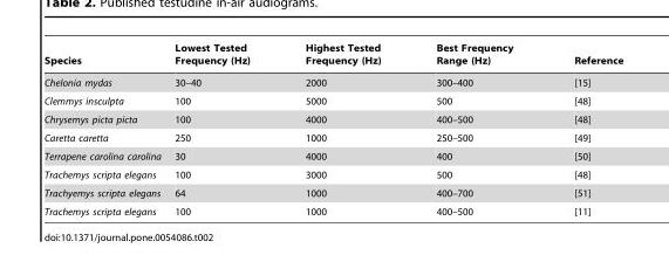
<table><thead><tr><td>Species</td><td>Lowest Tested Frequency (Hz)</td><td>Highest Tested Frequency (Hz)</td><td>Best Frequency Range (Hz)</td><td>Reference</td></tr></thead><tbody><tr><td>Chelonia mydas</td><td>30–40</td><td>2000</td><td>300–400</td><td>[15]</td></tr><tr><td>Clemmys insculpta</td><td>100</td><td>5000</td><td>500</td><td>[48]</td></tr><tr><td>Chrysemys picta picta</td><td>100</td><td>4000</td><td>400–500</td><td>[48]</td></tr><tr><td>Caretta caretta</td><td>250</td><td>1000</td><td>250–500</td><td>[49]</td></tr><tr><td>Terrapene carolina carolina</td><td>30</td><td>4000</td><td>400</td><td>[50]</td></tr><tr><td>Trachemys scripta elegans</td><td>100</td><td>3000</td><td>500</td><td>[48]</td></tr><tr><td>Trachyemys scripta elegans</td><td>64</td><td>1000</td><td>400–700</td><td>[51]</td></tr><tr><td>Trachemys scripta elegans</td><td>100</td><td>1000</td><td>400–500</td><td>[11]</td></tr></tbody></table>